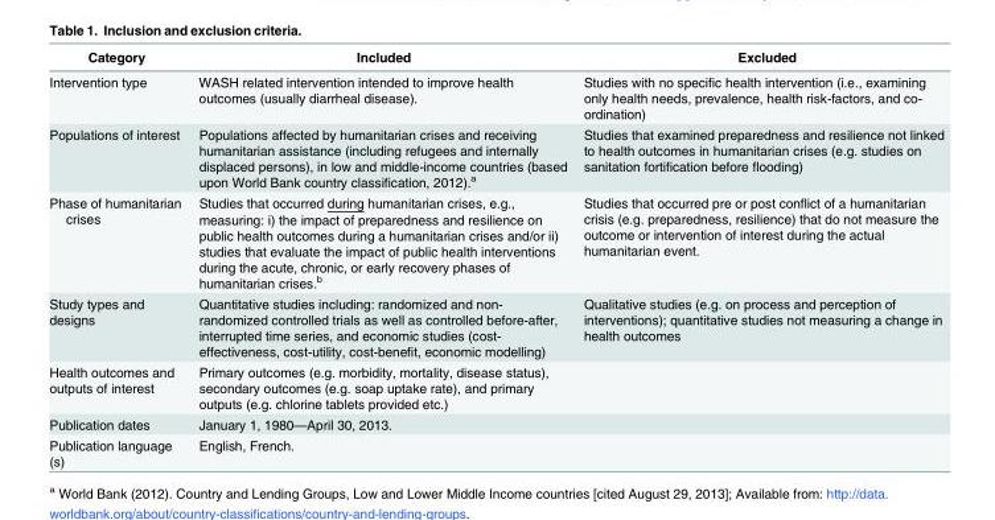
<table><thead><tr><td>Category</td><td>Included</td><td>Excluded</td></tr></thead><tbody><tr><td>Intervention type</td><td>WASH related intervention intended to improve health outcomes (usually diarrheal disease).</td><td>Studies with no specific health intervention (i.e., examining only health needs, prevalence, health risk-factors, and co- ordination)</td></tr><tr><td>Populations of interest</td><td>Populations affected by humanitarian crises and receiving humanitarian assistance (including refugees and internally displaced persons), in low and middle-income countries (based upon World Bank country classification, 2012).<sup>a</sup></td><td>Studies that examined preparedness and resilience not linked to health outcomes in humanitarian crises (e.g. studies on sanitation fortification before flooding)</td></tr><tr><td>Phase of humanitarian crises</td><td>Studies that occurred during humanitarian crises, e.g., measuring: i) the impact of preparedness and resilience on public health outcomes during a humanitarian crises and/or ii) studies that evaluate the impact of public health interventions during the acute, chronic, or early recovery phases of humanitarian crises.<sup>b</sup></td><td>Studies that occurred pre or post conflict of a humanitarian crisis (e.g. preparedness, resilience) that do not measure the outcome or intervention of interest during the actual humanitarian event.</td></tr><tr><td>Study types and designs</td><td>Quantitative studies including: randomized and non- randomized controlled trials as well as controlled before-after, interrupted time series, and economic studies (cost- effectiveness, cost-utility, cost-benefit, economic modelling)</td><td>Qualitative studies (e.g. on process and perception of interventions); quantitative studies not measuring a change in health outcomes</td></tr><tr><td>Health outcomes and outputs of interest</td><td>Primary outcomes (e.g. morbidity, mortality, disease status), secondary outcomes (e.g. soap uptake rate), and primary outputs (e.g. chlorine tablets provided etc.)</td><td></td></tr><tr><td>Publication dates</td><td>January 1, 1980—April 30, 2013.</td><td></td></tr><tr><td>Publication language (s)</td><td>English, French.</td><td></td></tr></tbody></table>